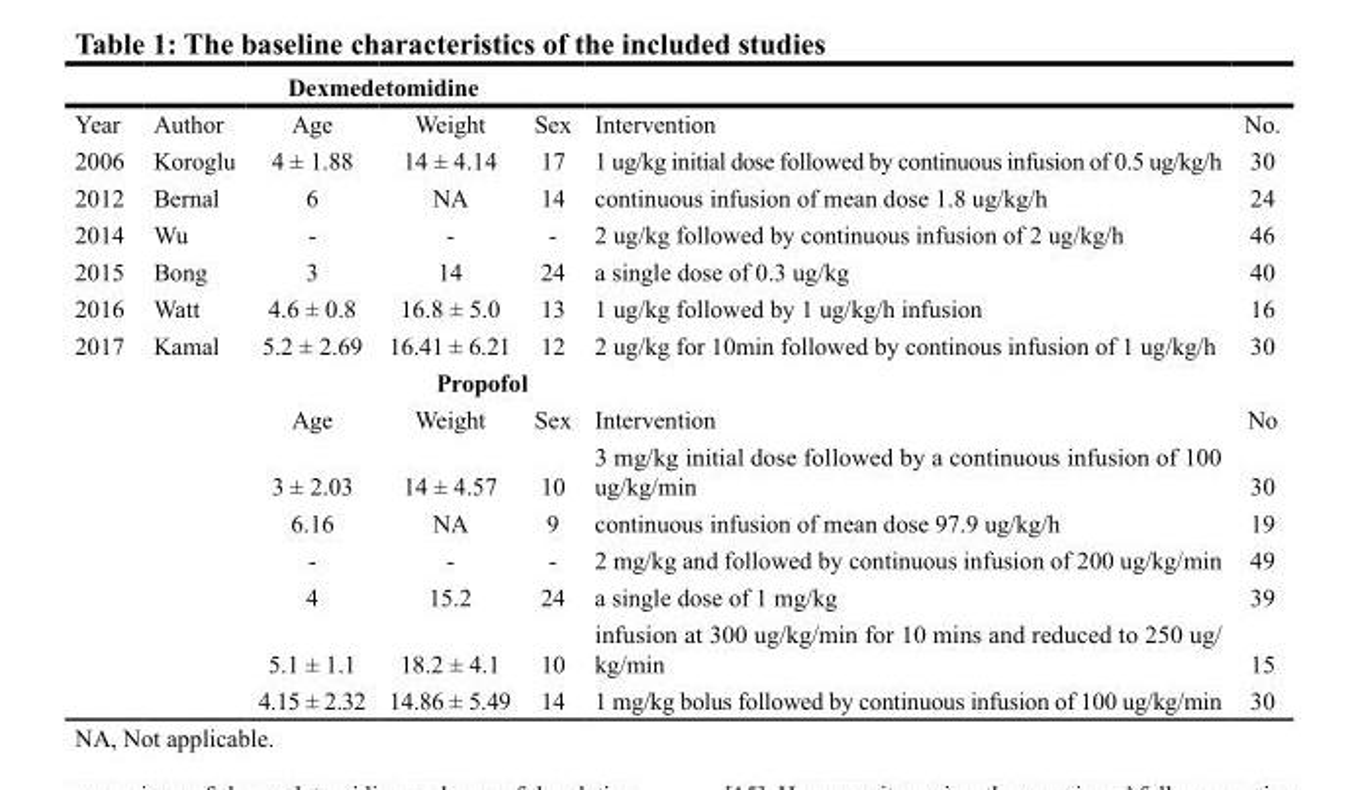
<table><thead><tr><td rowspan="2">Year</td><td rowspan="2">Author</td><td colspan="2">Dexmedetomidine</td><td rowspan="2">Sex</td><td rowspan="2">Intervention</td><td rowspan="2">No.</td></tr><tr><td>Age</td><td>Weight</td></tr></thead><tbody><tr><td>2006</td><td>Koroglu</td><td>4 ± 1.88</td><td>14 ± 4.14</td><td>17</td><td>1 ug/kg initial dose followed by continuous infusion of 0.5 ug/kg/h</td><td>30</td></tr><tr><td>2012</td><td>Bernal</td><td>6</td><td>NA</td><td>14</td><td>continuous infusion of mean dose 1.8 ug/kg/h</td><td>24</td></tr><tr><td>2014</td><td>Wu</td><td>-</td><td>-</td><td>-</td><td>2 ug/kg followed by continuous infusion of 2 ug/kg/h</td><td>46</td></tr><tr><td>2015</td><td>Bong</td><td>3</td><td>14</td><td>24</td><td>a single dose of 0.3 ug/kg</td><td>40</td></tr><tr><td>2016</td><td>Watt</td><td>4.6 ± 0.8</td><td>16.8 ± 5.0</td><td>13</td><td>1 ug/kg followed by 1 ug/kg/h infusion</td><td>16</td></tr><tr><td rowspan="9">2017</td><td>Kamal</td><td>5.2 ± 2.69</td><td>16.41 ± 6.21</td><td>12</td><td>2 ug/kg for 10min followed by continous infusion of 1 ug/kg/h</td><td>30</td></tr><tr><td></td><td></td><td colspan="2">Propofol</td><td></td><td></td></tr><tr><td></td><td>Age</td><td>Weight</td><td>Sex</td><td>Intervention</td><td>No</td></tr><tr><td></td><td>3 ± 2.03</td><td>14 ± 4.57</td><td>10</td><td>3 mg/kg initial dose followed by a continuous infusion of 100 ug/kg/min</td><td>30</td></tr><tr><td></td><td>6.16</td><td>NA</td><td>9</td><td>continuous infusion of mean dose 97.9 ug/kg/h</td><td>19</td></tr><tr><td></td><td>-</td><td>-</td><td>-</td><td>2 mg/kg and followed by continuous infusion of 200 ug/kg/min</td><td>49</td></tr><tr><td></td><td>4</td><td>15.2</td><td>24</td><td>a single dose of 1 mg/kg</td><td>39</td></tr><tr><td></td><td>5.1 ± 1.1</td><td>18.2 ± 4.1</td><td>10</td><td>infusion at 300 ug/kg/min for 10 mins and reduced to 250 ug/ kg/min</td><td>15</td></tr><tr><td></td><td>4.15 ± 2.32</td><td>14.86 ± 5.49</td><td>14</td><td>1 mg/kg bolus followed by continuous infusion of 100 ug/kg/min</td><td>30</td></tr></tbody></table>